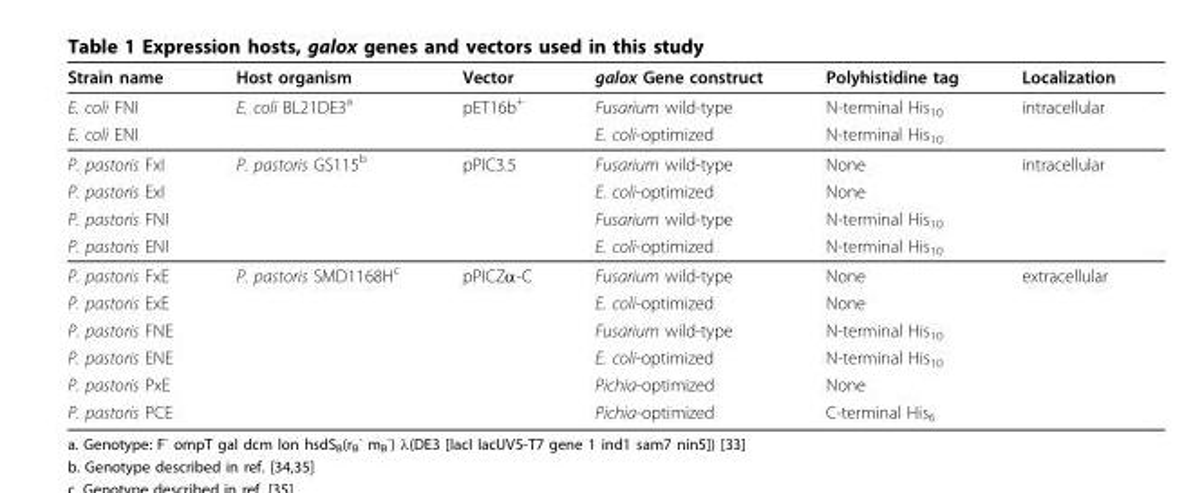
<table><thead><tr><td>Strain name</td><td>Host organism</td><td>Vector</td><td>galox Gene construct</td><td>Polyhistidine tag</td><td>Localization</td></tr></thead><tbody><tr><td>E. coli FNI</td><td>E. coli BL21DE3<sup>a</sup></td><td>pET16b<sup>+</sup></td><td>Fusarium wild-type</td><td>N-terminal His<sub>10</sub></td><td>intracellular</td></tr><tr><td>E. coli ENI</td><td></td><td></td><td>E. coli-optimized</td><td>N-terminal His<sub>10</sub></td><td></td></tr><tr><td>P. pastoris FxI</td><td>P. pastoris GS115<sup>b</sup></td><td>pPIC3.5</td><td>Fusarium wild-type</td><td>None</td><td>intracellular</td></tr><tr><td>P. pastoris ExI</td><td></td><td></td><td>E. coli-optimized</td><td>None</td><td></td></tr><tr><td>P. pastoris FNI</td><td></td><td></td><td>Fusarium wild-type</td><td>N-terminal His<sub>10</sub></td><td></td></tr><tr><td>P. pastoris ENI</td><td></td><td></td><td>E. coli-optimized</td><td>N-terminal His<sub>10</sub></td><td></td></tr><tr><td>P. pastoris FxE</td><td>P. pastoris SMD1168H<sup>c</sup></td><td>pPICZα-C</td><td>Fusarium wild-type</td><td>None</td><td>extracellular</td></tr><tr><td>P. pastoris ExE</td><td></td><td></td><td>E. coli-optimized</td><td>None</td><td></td></tr><tr><td>P. pastoris FNE</td><td></td><td></td><td>Fusarium wild-type</td><td>N-terminal His<sub>10</sub></td><td></td></tr><tr><td>P. pastoris ENE</td><td></td><td></td><td>E. coli-optimized</td><td>N-terminal His<sub>10</sub></td><td></td></tr><tr><td>P. pastoris PxE</td><td></td><td></td><td>Pichia-optimized</td><td>None</td><td></td></tr><tr><td>P. pastoris PCE</td><td></td><td></td><td>Pichia-optimized</td><td>C-terminal His<sub>6</sub></td><td></td></tr></tbody></table>